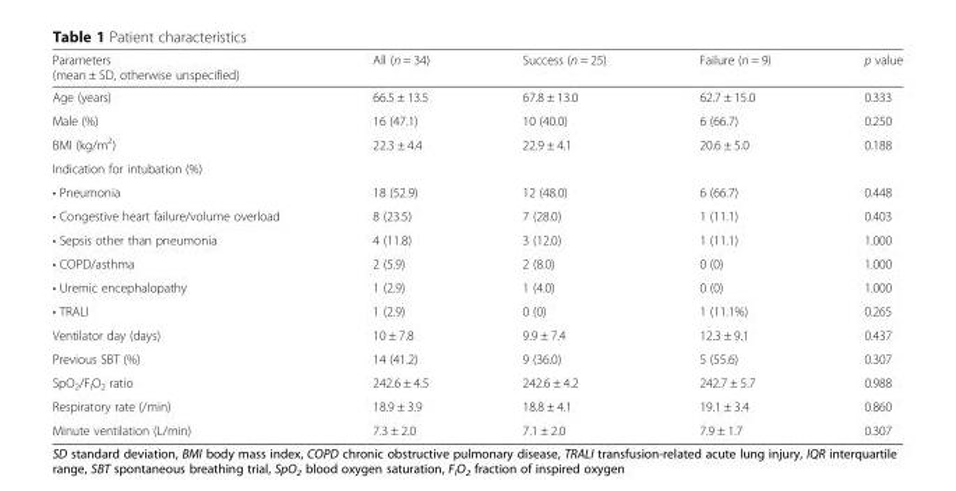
<table><thead><tr><td>Parameters (mean ± SD, otherwise unspecified)</td><td>All (n = 34)</td><td>Success (n = 25)</td><td>Failure (n = 9)</td><td>p value</td></tr></thead><tbody><tr><td>Age (years)</td><td>66.5 ± 13.5</td><td>67.8 ± 13.0</td><td>62.7 ± 15.0</td><td>0.333</td></tr><tr><td>Male (%)</td><td>16 (47.1)</td><td>10 (40.0)</td><td>6 (66.7)</td><td>0.250</td></tr><tr><td>BMI (kg/m<sup>2</sup>)</td><td>22.3 ± 4.4</td><td>22.9 ± 4.1</td><td>20.6 ± 5.0</td><td>0.188</td></tr><tr><td colspan="5">Indication for intubation (%)</td></tr><tr><td>• Pneumonia</td><td>18 (52.9)</td><td>12 (48.0)</td><td>6 (66.7)</td><td>0.448</td></tr><tr><td>• Congestive heart failure/volume overload</td><td>8 (23.5)</td><td>7 (28.0)</td><td>1 (11.1)</td><td>0.403</td></tr><tr><td>• Sepsis other than pneumonia</td><td>4 (11.8)</td><td>3 (12.0)</td><td>1 (11.1)</td><td>1.000</td></tr><tr><td>• COPD/asthma</td><td>2 (5.9)</td><td>2 (8.0)</td><td>0 (0)</td><td>1.000</td></tr><tr><td>• Uremic encephalopathy</td><td>1 (2.9)</td><td>1 (4.0)</td><td>0 (0)</td><td>1.000</td></tr><tr><td>• TRALI</td><td>1 (2.9)</td><td>0 (0)</td><td>1 (11.1%)</td><td>0.265</td></tr><tr><td>Ventilator day (days)</td><td>10 ± 7.8</td><td>9.9 ± 7.4</td><td>12.3 ± 9.1</td><td>0.437</td></tr><tr><td>Previous SBT (%)</td><td>14 (41.2)</td><td>9 (36.0)</td><td>5 (55.6)</td><td>0.307</td></tr><tr><td>SpO<sub>2</sub>/F<sub>I</sub>O<sub>2</sub> ratio</td><td>242.6 ± 4.5</td><td>242.6 ± 4.2</td><td>242.7 ± 5.7</td><td>0.988</td></tr><tr><td>Respiratory rate (/min)</td><td>18.9 ± 3.9</td><td>18.8 ± 4.1</td><td>19.1 ± 3.4</td><td>0.860</td></tr><tr><td>Minute ventilation (L/min)</td><td>7.3 ± 2.0</td><td>7.1 ± 2.0</td><td>7.9 ± 1.7</td><td>0.307</td></tr></tbody></table>